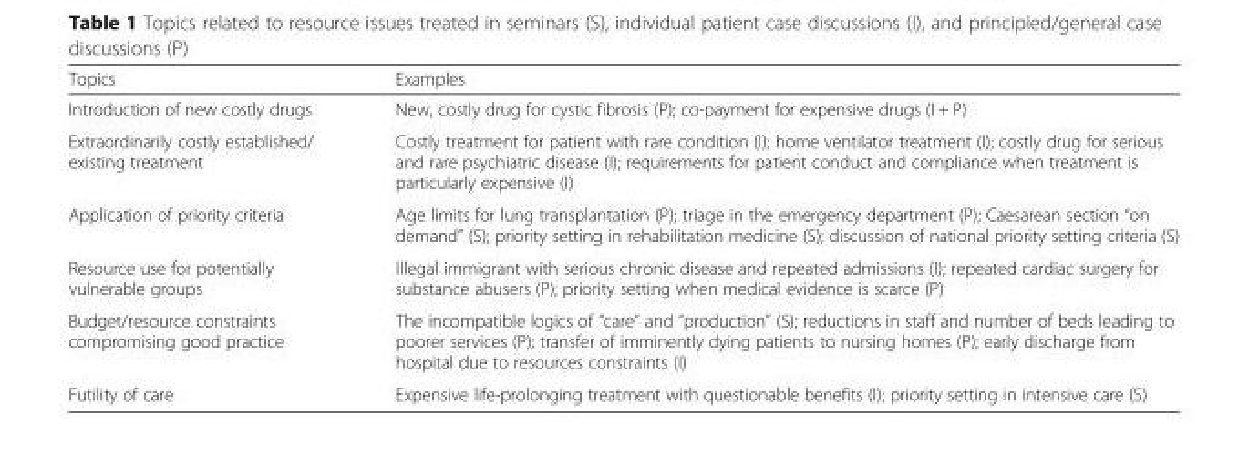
<table><thead><tr><td>Topics</td><td>Examples</td></tr></thead><tbody><tr><td>Introduction of new costly drugs</td><td>New, costly drug for cystic fibrosis (P); co-payment for expensive drugs (I + P)</td></tr><tr><td>Extraordinarily costly established/ existing treatment</td><td>Costly treatment for patient with rare condition (I); home ventilator treatment (I); costly drug for serious and rare psychiatric disease (I); requirements for patient conduct and compliance when treatment is particularly expensive (I)</td></tr><tr><td>Application of priority criteria</td><td>Age limits for lung transplantation (P); triage in the emergency department (P); Caesarean section “on demand” (S); priority setting in rehabilitation medicine (S); discussion of national priority setting criteria (S)</td></tr><tr><td>Resource use for potentially vulnerable groups</td><td>Illegal immigrant with serious chronic disease and repeated admissions (I); repeated cardiac surgery for substance abusers (P); priority setting when medical evidence is scarce (P)</td></tr><tr><td>Budget/resource constraints compromising good practice</td><td>The incompatible logics of “care” and “production” (S); reductions in staff and number of beds leading to poorer services (P); transfer of imminently dying patients to nursing homes (P); early discharge from hospital due to resources constraints (I)</td></tr><tr><td>Futility of care</td><td>Expensive life-prolonging treatment with questionable benefits (I); priority setting in intensive care (S)</td></tr></tbody></table>